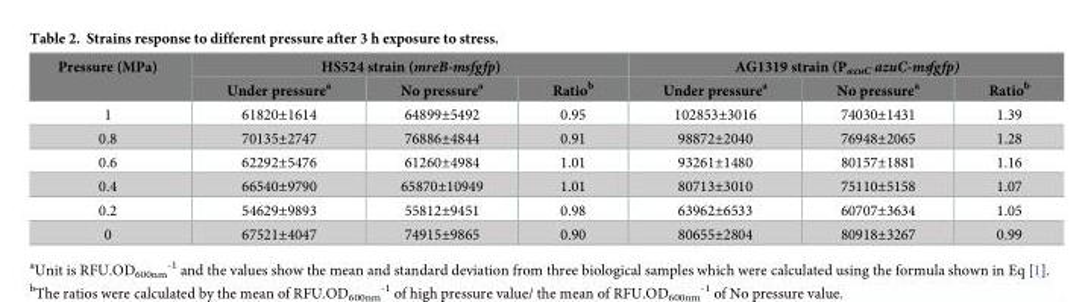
<table><thead><tr><td rowspan="2">Pressure (MPa)</td><td colspan="3">HS524 strain (mreB-msfgfp)</td><td colspan="3">AG1319 strain (P<sub>azuC</sub> azuC-msfgfp)</td></tr><tr><td>Under pressure<sup>a</sup></td><td>No pressure<sup>a</sup></td><td>Ratio<sup>b</sup></td><td>Under pressure<sup>a</sup></td><td>No pressure<sup>a</sup></td><td>Ratio<sup>b</sup></td></tr></thead><tbody><tr><td>1</td><td>61820±1614</td><td>64899±5492</td><td>0.95</td><td>102853±3016</td><td>74030±1431</td><td>1.39</td></tr><tr><td>0.8</td><td>70135±2747</td><td>76886±4844</td><td>0.91</td><td>98872±2040</td><td>76948±2065</td><td>1.28</td></tr><tr><td>0.6</td><td>62292±5476</td><td>61260±4984</td><td>1.01</td><td>93261±1480</td><td>80157±1881</td><td>1.16</td></tr><tr><td>0.4</td><td>66540±9790</td><td>65870±10949</td><td>1.01</td><td>80713±3010</td><td>75110±5158</td><td>1.07</td></tr><tr><td>0.2</td><td>54629±9893</td><td>55812±9451</td><td>0.98</td><td>63962±6533</td><td>60707±3634</td><td>1.05</td></tr><tr><td>0</td><td>67521±4047</td><td>74915±9865</td><td>0.90</td><td>80655±2804</td><td>80918±3267</td><td>0.99</td></tr></tbody></table>